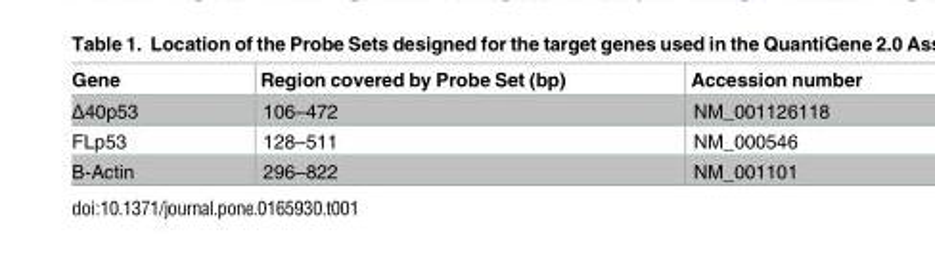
<table><thead><tr><td>Gene</td><td>Region covered by Probe Set (bp)</td><td>Accession number</td></tr></thead><tbody><tr><td>Δ40p53</td><td>106–472</td><td>NM_001126118</td></tr><tr><td>FLp53</td><td>128–511</td><td>NM_000546</td></tr><tr><td>Β-Actin</td><td>296–822</td><td>NM_001101</td></tr></tbody></table>